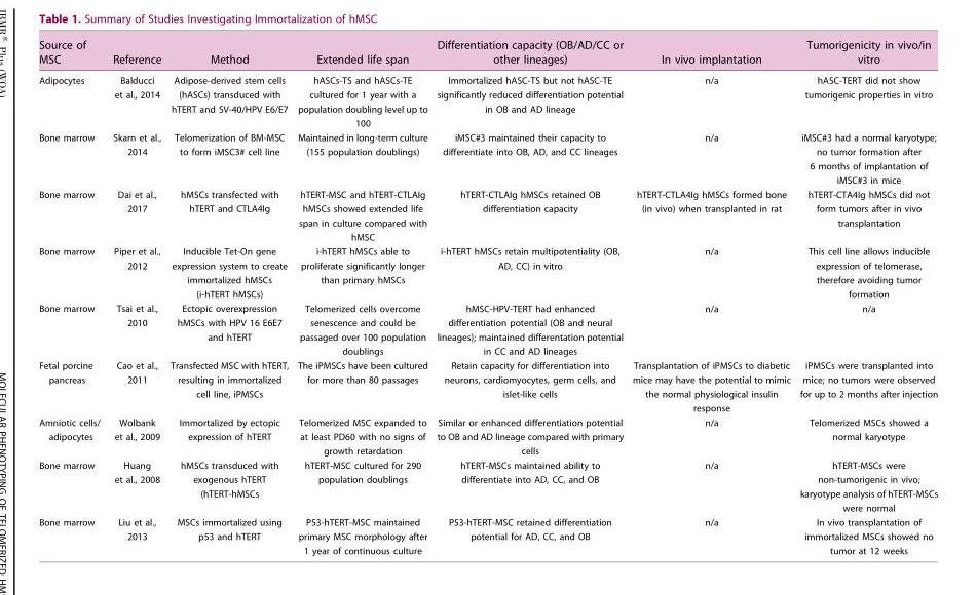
<table><thead><tr><td>Source of MSC</td><td>Reference</td><td>Method</td><td>Extended life span</td><td>Differentiation capacity (OB/AD/CC or other lineages)</td><td>In vivo implantation</td><td>Tumorigenicity in vivo/in vitro</td></tr></thead><tbody><tr><td>Adipocytes</td><td>Balducci et al., 2014</td><td>Adipose-derived stem cells (hASCs) transduced with hTERT and SV-40/HPV E6/E7</td><td>hASCs-TS and hASCs-TE cultured for 1 year with a population doubling level up to 100</td><td>Immortalized hASC-TS but not hASC-TE significantly reduced differentiation potential in OB and AD lineage</td><td>n/a</td><td>hASC-TERT did not show tumorigenic properties in vitro</td></tr><tr><td>Bone marrow</td><td>Skarn et al., 2014</td><td>Telomerization of BM-MSC to form iMSC3# cell line</td><td>Maintained in long-term culture (155 population doublings)</td><td>iMSC#3 maintained their capacity to differentiate into OB, AD, and CC lineages</td><td>n/a</td><td>iMSC#3 had a normal karyotype; no tumor formation after 6 months of implantation of iMSC#3 in mice</td></tr><tr><td>Bone marrow</td><td>Dai et al., 2017</td><td>hMSCs transfected with hTERT and CTLA4Ig</td><td>hTERT-MSC and hTERT-CTLAIg hMSCs showed extended life span in culture compared with hMSC</td><td>hTERT-CTLAIg hMSCs retained OB differentiation capacity</td><td>hTERT-CTLA4Ig hMSCs formed bone (in vivo) when transplanted in rat</td><td>hTERT-CTA4Ig hMSCs did not form tumors after in vivo transplantation</td></tr><tr><td>Bone marrow</td><td>Piper et al., 2012</td><td>Inducible Tet-On gene expression system to create immortalized hMSCs (i-hTERT hMSCs)</td><td>i-hTERT hMSCs able to proliferate significantly longer than primary hMSCs</td><td>i-hTERT hMSCs retain multipotentiality (OB, AD, CC) in vitro</td><td>n/a</td><td>This cell line allows inducible expression of telomerase, therefore avoiding tumor formation</td></tr><tr><td>Bone marrow</td><td>Tsai et al., 2010</td><td>Ectopic overexpression hMSCs with HPV 16 E6E7 and hTERT</td><td>Telomerized cells overcome senescence and could be passaged over 100 population doublings</td><td>hMSC-HPV-TERT had enhanced differentiation potential (OB and neural lineages); maintained differentation potential in CC and AD lineages</td><td>n/a</td><td>n/a</td></tr><tr><td>Fetal porcine pancreas</td><td>Cao et al., 2011</td><td>Transfected MSC with hTERT, resulting in immortalized cell line, iPMSCs</td><td>The iPMSCs have been cultured for more than 80 passages</td><td>Retain capacity for differentiation into neurons, cardiomyocytes, germ cells, and islet-like cells</td><td>Transplantation of iPMSCs to diabetic mice may have the potential to mimic the normal physiological insulin response</td><td>iPMSCs were transplanted into mice; no tumors were observed for up to 2 months after injection</td></tr><tr><td>Amniotic cells/ adipocytes</td><td>Wolbank et al., 2009</td><td>Immortalized by ectopic expression of hTERT</td><td>Telomerized MSC expanded to at least PD60 with no signs of growth retardation</td><td>Similar or enhanced differentiation potential to OB and AD lineage compared with primary cells</td><td>n/a</td><td>Telomerized MSCs showed a normal karyotype</td></tr><tr><td>Bone marrow</td><td>Huang et al., 2008</td><td>hMSCs transduced with exogenous hTERT (hTERT-hMSCs</td><td>hTERT-MSC cultured for 290 population doublings</td><td>hTERT-MSCs maintained ability to differentiate into AD, CC, and OB</td><td>n/a</td><td>hTERT-MSCs were non-tumorigenic in vivo; karyotype analysis of hTERT-MSCs were normal</td></tr><tr><td>Bone marrow</td><td>Liu et al., 2013</td><td>MSCs immortalized using p53 and hTERT</td><td>P53-hTERT-MSC maintained primary MSC morphology after 1 year of continuous culture</td><td>P53-hTERT-MSC retained differentiation potential for AD, CC, and OB</td><td>n/a</td><td>In vivo transplantation of immortalized MSCs showed no tumor at 12 weeks</td></tr></tbody></table>